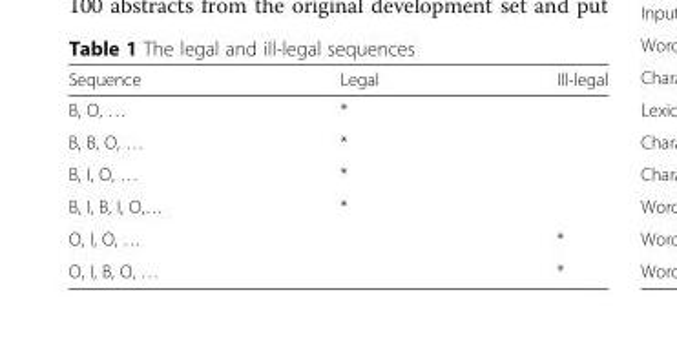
<table><thead><tr><td>Sequence</td><td>Legal</td><td>Ill-legal</td></tr></thead><tbody><tr><td>B, O, …</td><td>*</td><td></td></tr><tr><td>B, B, O, …</td><td>*</td><td></td></tr><tr><td>B, I, O, …</td><td>*</td><td></td></tr><tr><td>B, I, B, I, O,…</td><td>*</td><td></td></tr><tr><td>O, I, O, …</td><td></td><td>*</td></tr><tr><td>O, I, B, O, …</td><td></td><td>*</td></tr></tbody></table>